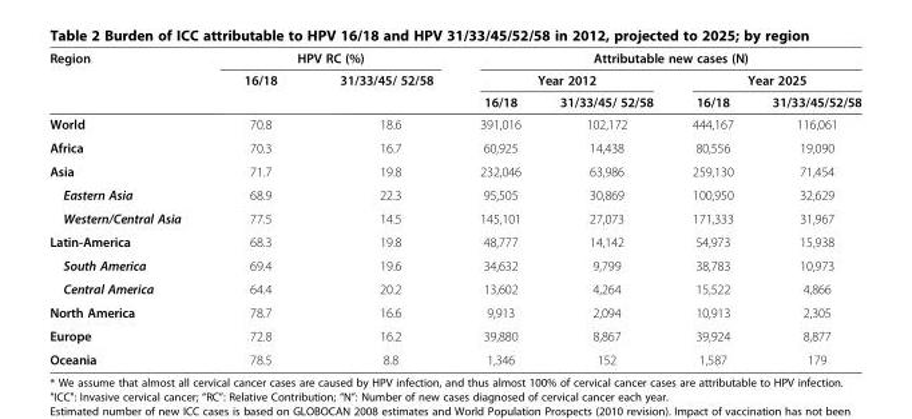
<table><thead><tr><td rowspan="3">Region</td><td colspan="2">HPV RC (%)</td><td colspan="4">Attributable new cases (N)</td></tr><tr><td rowspan="2">16/18</td><td rowspan="2">31/33/45/ 52/58</td><td colspan="2">Year 2012</td><td colspan="2">Year 2025</td></tr><tr><td>16/18</td><td>31/33/45/ 52/58</td><td>16/18</td><td>31/33/45/52/58</td></tr></thead><tbody><tr><td>World</td><td>70.8</td><td>18.6</td><td>391,016</td><td>102,172</td><td>444,167</td><td>116,061</td></tr><tr><td>Africa</td><td>70.3</td><td>16.7</td><td>60,925</td><td>14,438</td><td>80,556</td><td>19,090</td></tr><tr><td>Asia</td><td>71.7</td><td>19.8</td><td>232,046</td><td>63,986</td><td>259,130</td><td>71,454</td></tr><tr><td>Eastern Asia</td><td>68.9</td><td>22.3</td><td>95,505</td><td>30,869</td><td>100,950</td><td>32,629</td></tr><tr><td>Western/Central Asia</td><td>77.5</td><td>14.5</td><td>145,101</td><td>27,073</td><td>171,333</td><td>31,967</td></tr><tr><td>Latin-America</td><td>68.3</td><td>19.8</td><td>48,777</td><td>14,142</td><td>54,973</td><td>15,938</td></tr><tr><td>South America</td><td>69.4</td><td>19.6</td><td>34,632</td><td>9,799</td><td>38,783</td><td>10,973</td></tr><tr><td>Central America</td><td>64.4</td><td>20.2</td><td>13,602</td><td>4,264</td><td>15,522</td><td>4,866</td></tr><tr><td>North America</td><td>78.7</td><td>16.6</td><td>9,913</td><td>2,094</td><td>10,913</td><td>2,305</td></tr><tr><td>Europe</td><td>72.8</td><td>16.2</td><td>39,880</td><td>8,867</td><td>39,924</td><td>8,877</td></tr><tr><td>Oceania</td><td>78.5</td><td>8.8</td><td>1,346</td><td>152</td><td>1,587</td><td>179</td></tr></tbody></table>